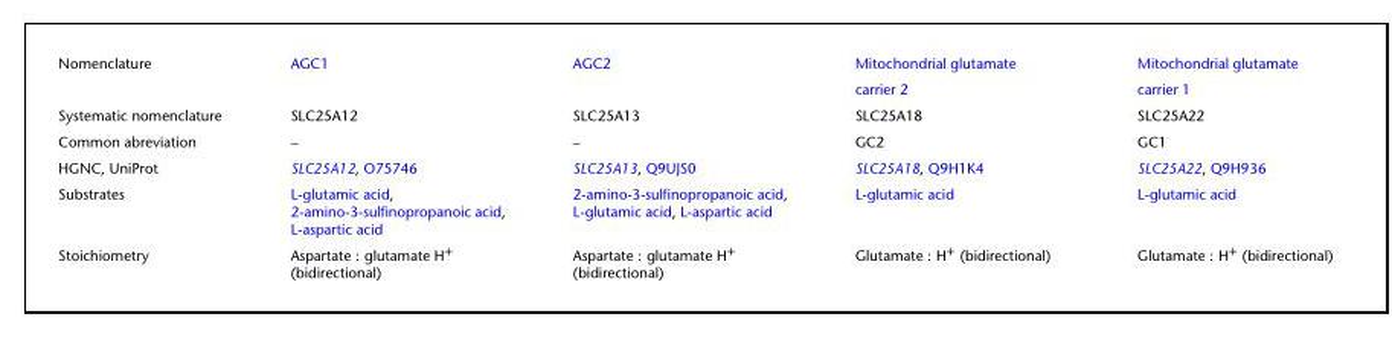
<table><tbody><tr><td rowspan="2">Nomenclature</td><td>AGC1</td><td>AGC2</td><td>Mitochondrial glutamate</td><td>Mitochondrial glutamate</td></tr><tr><td></td><td></td><td>carrier 2</td><td>carrier 1</td></tr><tr><td>Systematic nomenclature</td><td>SLC25A12</td><td>SLC25A13</td><td>SLC25A18</td><td>SLC25A22</td></tr><tr><td>Common abreviation</td><td>–</td><td>–</td><td>GC2</td><td>GC1</td></tr><tr><td>HGNC, UniProt</td><td>SLC25A12, O75746</td><td>SLC25A13, Q9UJS0</td><td>SLC25A18, Q9H1K4</td><td>SLC25A22, Q9H936</td></tr><tr><td>Substrates</td><td>L-glutamic acid, 2-amino-3-sulfinopropanoic acid, L-aspartic acid</td><td>2-amino-3-sulfinopropanoic acid, L-glutamic acid, L-aspartic acid</td><td>L-glutamic acid</td><td>L-glutamic acid</td></tr><tr><td>Stoichiometry</td><td>Aspartate : glutamate H<sup>+</sup> (bidirectional)</td><td>Aspartate : glutamate H<sup>+</sup> (bidirectional)</td><td>Glutamate : H<sup>+</sup> (bidirectional)</td><td>Glutamate : H<sup>+</sup> (bidirectional)</td></tr></tbody></table>